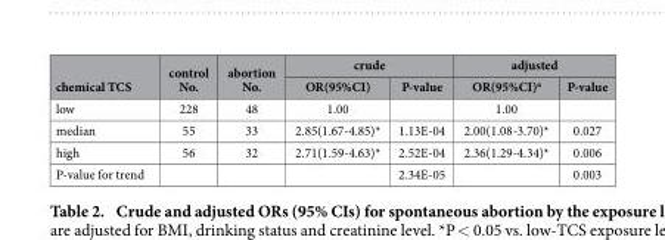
<table><thead><tr><td rowspan="2">chemical TCS</td><td rowspan="2">control No.</td><td rowspan="2">abortion No.</td><td colspan="2">crude</td><td colspan="2">adjusted</td></tr><tr><td>OR(95%CI)</td><td>P-value</td><td>OR(95%CI)<sup>a</sup></td><td>P-value</td></tr></thead><tbody><tr><td>low</td><td>228</td><td>48</td><td>1.00</td><td></td><td>1.00</td><td></td></tr><tr><td>median</td><td>55</td><td>33</td><td>2.85(1.67-4.85)*</td><td>1.13E-04</td><td>2.00(1.08-3.70)*</td><td>0.027</td></tr><tr><td>high</td><td>56</td><td>32</td><td>2.71(1.59-4.63)*</td><td>2.52E-04</td><td>2.36(1.29-4.34)*</td><td>0.006</td></tr><tr><td>P-value for trend</td><td></td><td></td><td></td><td>2.34E-05</td><td></td><td>0.003</td></tr></tbody></table>